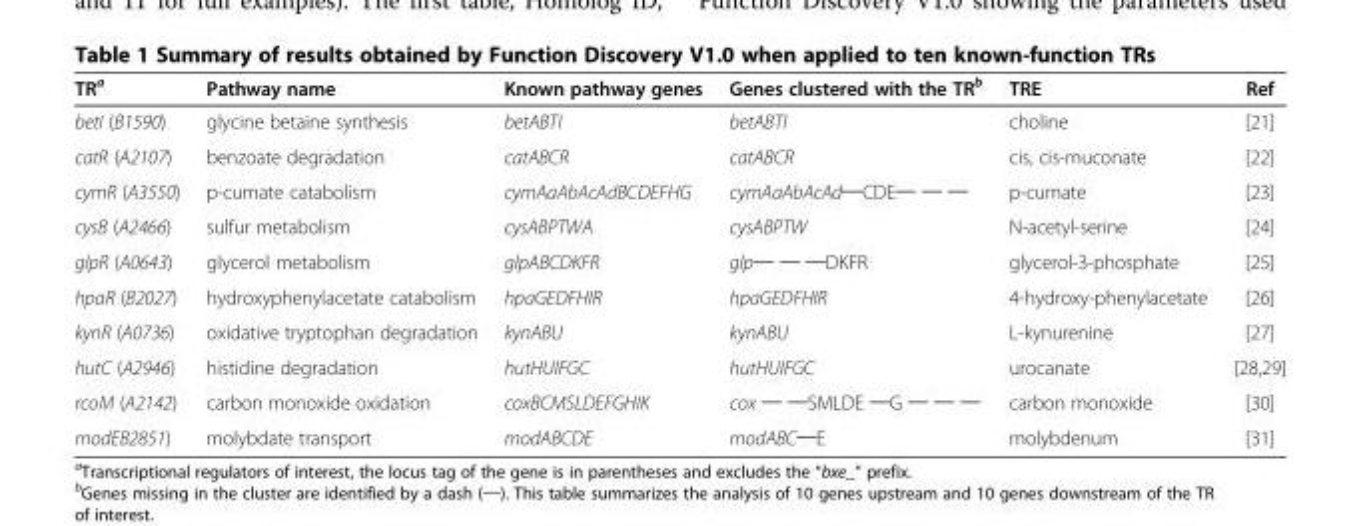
<table><thead><tr><td>TR<sup>a</sup></td><td>Pathway name</td><td>Known pathway genes</td><td>Genes clustered with the TR<sup>b</sup></td><td>TRE</td><td>Ref</td></tr></thead><tbody><tr><td>betI (B1590)</td><td>glycine betaine synthesis</td><td>betABTI</td><td>betABTI</td><td>choline</td><td>[21]</td></tr><tr><td>catR (A2107)</td><td>benzoate degradation</td><td>catABCR</td><td>catABCR</td><td>cis, cis-muconate</td><td>[22]</td></tr><tr><td>cymR (A3550)</td><td>p-cumate catabolism</td><td>cymAaAbAcAdBCDEFHG</td><td>cymAaAbAcAd─CDE─ ─ ─</td><td>p-cumate</td><td>[23]</td></tr><tr><td>cysB (A2466)</td><td>sulfur metabolism</td><td>cysABPTWA</td><td>cysABPTW</td><td>N-acetyl-serine</td><td>[24]</td></tr><tr><td>glpR (A0643)</td><td>glycerol metabolism</td><td>glpABCDKFR</td><td>glp─ ─ ─DKFR</td><td>glycerol-3-phosphate</td><td>[25]</td></tr><tr><td>hpaR (B2027)</td><td>hydroxyphenylacetate catabolism</td><td>hpaGEDFHIR</td><td>hpaGEDFHIR</td><td>4-hydroxy-phenylacetate</td><td>[26]</td></tr><tr><td>kynR (A0736)</td><td>oxidative tryptophan degradation</td><td>kynABU</td><td>kynABU</td><td>L-kynurenine</td><td>[27]</td></tr><tr><td>hutC (A2946)</td><td>histidine degradation</td><td>hutHUIFGC</td><td>hutHUIFGC</td><td>urocanate</td><td>[28,29]</td></tr><tr><td>rcoM (A2142)</td><td>carbon monoxide oxidation</td><td>coxBCMSLDEFGHIK</td><td>cox ─ ─SMLDE ─G ─ ─ ─</td><td>carbon monoxide</td><td>[30]</td></tr><tr><td>modEB2851)</td><td>molybdate transport</td><td>modABCDE</td><td>modABC─E</td><td>molybdenum</td><td>[31]</td></tr></tbody></table>